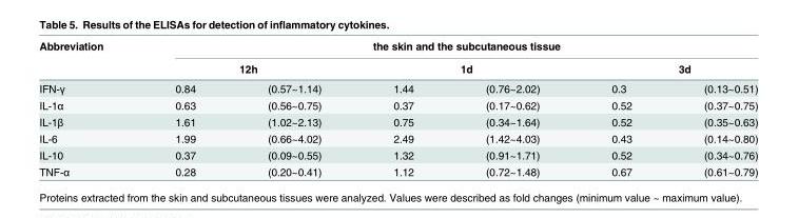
<table><thead><tr><td rowspan="3">Abbreviation IFN-γ</td><td colspan="6">the skin and the subcutaneous tissue</td></tr><tr><td colspan="2">12h</td><td colspan="2">1d</td><td colspan="2">3d</td></tr><tr><td>0.84</td><td>(0.57~1.14)</td><td>1.44</td><td>(0.76~2.02)</td><td>0.3</td><td>(0.13~0.51)</td></tr></thead><tbody><tr><td>IL-1α</td><td>0.63</td><td>(0.56~0.75)</td><td>0.37</td><td>(0.17~0.62)</td><td>0.52</td><td>(0.37~0.75)</td></tr><tr><td>IL-1β</td><td>1.61</td><td>(1.02~2.13)</td><td>0.75</td><td>(0.34~1.64)</td><td>0.52</td><td>(0.35~0.63)</td></tr><tr><td>IL-6</td><td>1.99</td><td>(0.66~4.02)</td><td>2.49</td><td>(1.42~4.03)</td><td>0.43</td><td>(0.14~0.80)</td></tr><tr><td>IL-10</td><td>0.37</td><td>(0.09~0.55)</td><td>1.32</td><td>(0.91~1.71)</td><td>0.52</td><td>(0.34~0.76)</td></tr><tr><td>TNF-α</td><td>0.28</td><td>(0.20~0.41)</td><td>1.12</td><td>(0.72~1.48)</td><td>0.67</td><td>(0.61~0.79)</td></tr></tbody></table>